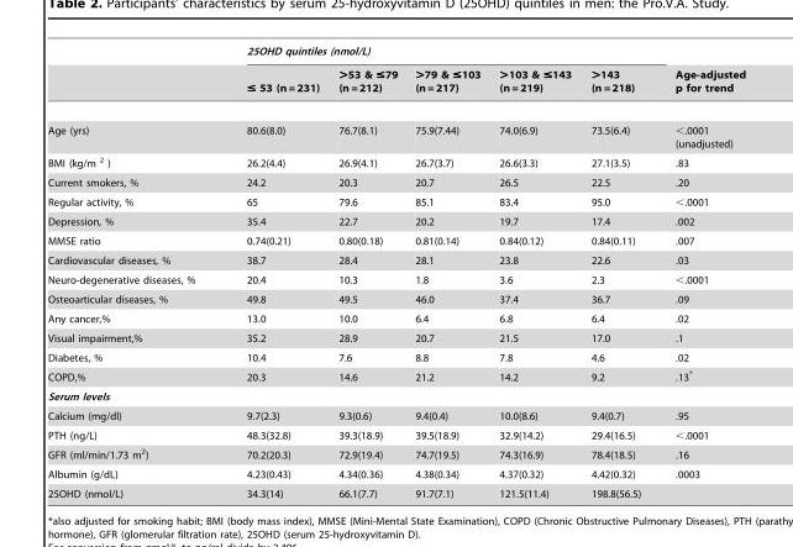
<table><thead><tr><td rowspan="2"></td><td colspan="5">25OHD quintiles (nmol/L)</td><td rowspan="2">Age-adjusted p for trend</td></tr><tr><td>≤ 53 (n = 231)</td><td>&gt;53 &amp; ≤79 (n = 212)</td><td>&gt;79 &amp; ≤103 (n = 217)</td><td>&gt;103 &amp; ≤143 (n = 219)</td><td>&gt;143 (n = 218)</td></tr></thead><tbody><tr><td>Age (yrs)</td><td>80.6(8.0)</td><td>76.7(8.1)</td><td>75.9(7.44)</td><td>74.0(6.9)</td><td>73.5(6.4)</td><td>&lt;.0001 (unadjusted)</td></tr><tr><td>BMI (kg/m <sup>2</sup> )</td><td>26.2(4.4)</td><td>26.9(4.1)</td><td>26.7(3.7)</td><td>26.6(3.3)</td><td>27.1(3.5)</td><td>.83</td></tr><tr><td>Current smokers, %</td><td>24.2</td><td>20.3</td><td>20.7</td><td>26.5</td><td>22.5</td><td>.20</td></tr><tr><td>Regular activity, %</td><td>65</td><td>79.6</td><td>85.1</td><td>83.4</td><td>95.0</td><td>&lt;.0001</td></tr><tr><td>Depression, %</td><td>35.4</td><td>22.7</td><td>20.2</td><td>19.7</td><td>17.4</td><td>.002</td></tr><tr><td>MMSE ratio</td><td>0.74(0.21)</td><td>0.80(0.18)</td><td>0.81(0.14)</td><td>0.84(0.12)</td><td>0.84(0.11)</td><td>.007</td></tr><tr><td>Cardiovascular diseases, %</td><td>38.7</td><td>28.4</td><td>28.1</td><td>23.8</td><td>22.6</td><td>.03</td></tr><tr><td>Neuro-degenerative diseases, %</td><td>20.4</td><td>10.3</td><td>1.8</td><td>3.6</td><td>2.3</td><td>&lt;.0001</td></tr><tr><td>Osteoarticular diseases, %</td><td>49.8</td><td>49.5</td><td>46.0</td><td>37.4</td><td>36.7</td><td>.09</td></tr><tr><td>Any cancer,%</td><td>13.0</td><td>10.0</td><td>6.4</td><td>6.8</td><td>6.4</td><td>.02</td></tr><tr><td>Visual impairment,%</td><td>35.2</td><td>28.9</td><td>20.7</td><td>21.5</td><td>17.0</td><td>.1</td></tr><tr><td>Diabetes, %</td><td>10.4</td><td>7.6</td><td>8.8</td><td>7.8</td><td>4.6</td><td>.02</td></tr><tr><td>COPD,%</td><td>20.3</td><td>14.6</td><td>21.2</td><td>14.2</td><td>9.2</td><td>.13*</td></tr><tr><td colspan="7">Serum levels</td></tr><tr><td>Calcium (mg/dl)</td><td>9.7(2.3)</td><td>9.3(0.6)</td><td>9.4(0.4)</td><td>10.0(8.6)</td><td>9.4(0.7)</td><td>.95</td></tr><tr><td>PTH (ng/L)</td><td>48.3(32.8)</td><td>39.3(18.9)</td><td>39.5(18.9)</td><td>32.9(14.2)</td><td>29.4(16.5)</td><td>&lt;.0001</td></tr><tr><td>GFR (ml/min/1.73 m<sup>2</sup>)</td><td>70.2(20.3)</td><td>72.9(19.4)</td><td>74.7(19.5)</td><td>74.3(16.9)</td><td>78.4(18.5)</td><td>.16</td></tr><tr><td>Albumin (g/dL)</td><td>4.23(0.43)</td><td>4.34(0.36)</td><td>4.38(0.34)</td><td>4.37(0.32)</td><td>4.42(0.32)</td><td>.0003</td></tr><tr><td>25OHD (nmol/L)</td><td>34.3(14)</td><td>66.1(7.7)</td><td>91.7(7.1)</td><td>121.5(11.4)</td><td>198.8(56.5)</td><td></td></tr></tbody></table>